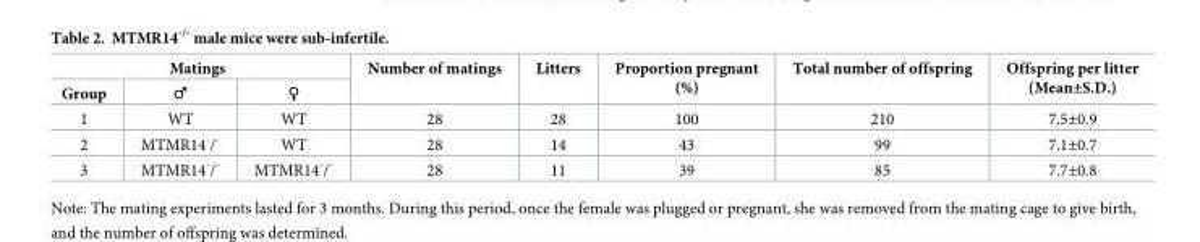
<table><thead><tr><td colspan="3">Matings</td><td rowspan="2">Number of matings</td><td rowspan="2">Litters</td><td rowspan="2">Proportion pregnant (%)</td><td rowspan="2">Total number of offspring</td><td rowspan="2">Offspring per litter (Mean±S.D.)</td></tr><tr><td>Group</td><td>♂</td><td>♀</td></tr></thead><tbody><tr><td>1</td><td>WT</td><td>WT</td><td>28</td><td>28</td><td>100</td><td>210</td><td>7.5±0.9</td></tr><tr><td>2</td><td>MTMR14<sup>-</sup>/<sup>-</sup></td><td>WT</td><td>28</td><td>14</td><td>43</td><td>99</td><td>7.1±0.7</td></tr><tr><td>3</td><td>MTMR14<sup>-</sup>/<sup>-</sup></td><td>MTMR14<sup>-</sup>/<sup>-</sup></td><td>28</td><td>11</td><td>39</td><td>85</td><td>7.7±0.8</td></tr></tbody></table>